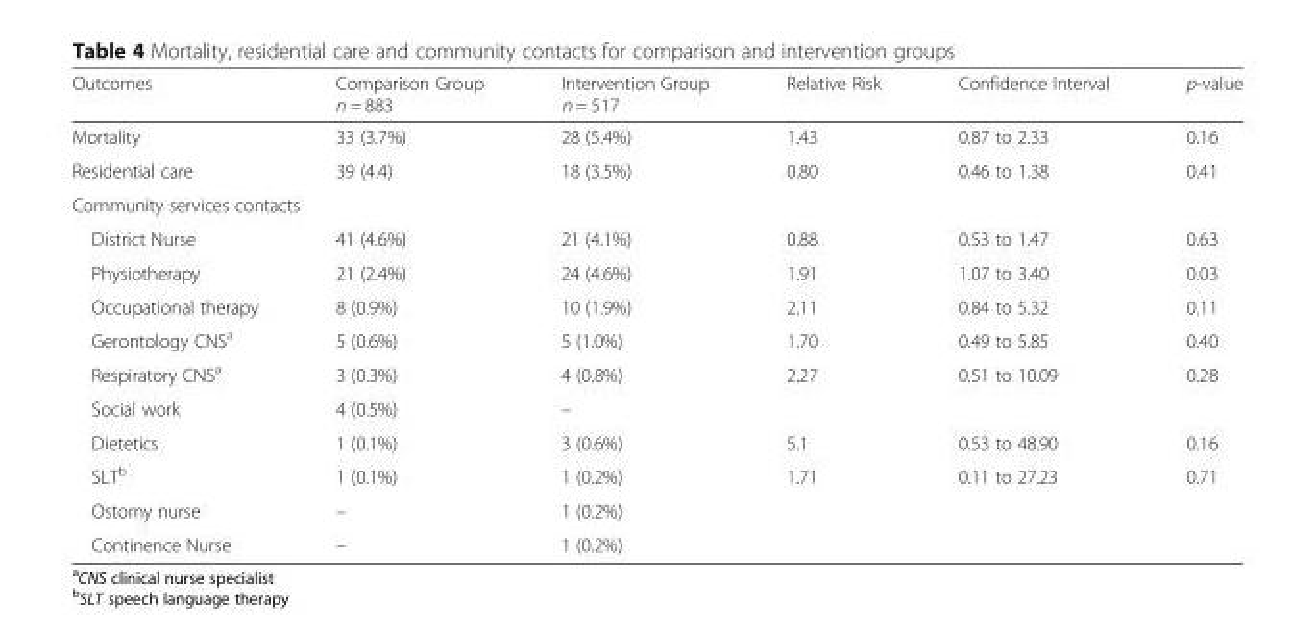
<table><thead><tr><td>Outcomes</td><td>Comparison Group n = 883</td><td>Intervention Group n = 517</td><td>Relative Risk</td><td>Confidence Interval</td><td>p-value</td></tr></thead><tbody><tr><td>Mortality</td><td>33 (3.7%)</td><td>28 (5.4%)</td><td>1.43</td><td>0.87 to 2.33</td><td>0.16</td></tr><tr><td>Residential care</td><td>39 (4.4)</td><td>18 (3.5%)</td><td>0.80</td><td>0.46 to 1.38</td><td>0.41</td></tr><tr><td colspan="6">Community services contacts</td></tr><tr><td>District Nurse</td><td>41 (4.6%)</td><td>21 (4.1%)</td><td>0.88</td><td>0.53 to 1.47</td><td>0.63</td></tr><tr><td>Physiotherapy</td><td>21 (2.4%)</td><td>24 (4.6%)</td><td>1.91</td><td>1.07 to 3.40</td><td>0.03</td></tr><tr><td>Occupational therapy</td><td>8 (0.9%)</td><td>10 (1.9%)</td><td>2.11</td><td>0.84 to 5.32</td><td>0.11</td></tr><tr><td>Gerontology CNS<sup>a</sup></td><td>5 (0.6%)</td><td>5 (1.0%)</td><td>1.70</td><td>0.49 to 5.85</td><td>0.40</td></tr><tr><td>Respiratory CNS<sup>a</sup></td><td>3 (0.3%)</td><td>4 (0.8%)</td><td>2.27</td><td>0.51 to 10.09</td><td>0.28</td></tr><tr><td>Social work</td><td>4 (0.5%)</td><td>–</td><td></td><td></td><td></td></tr><tr><td>Dietetics</td><td>1 (0.1%)</td><td>3 (0.6%)</td><td>5.1</td><td>0.53 to 48.90</td><td>0.16</td></tr><tr><td>SLT<sup>b</sup></td><td>1 (0.1%)</td><td>1 (0.2%)</td><td>1.71</td><td>0.11 to 27.23</td><td>0.71</td></tr><tr><td>Ostomy nurse</td><td>–</td><td>1 (0.2%)</td><td></td><td></td><td></td></tr><tr><td>Continence Nurse</td><td>–</td><td>1 (0.2%)</td><td></td><td></td><td></td></tr></tbody></table>